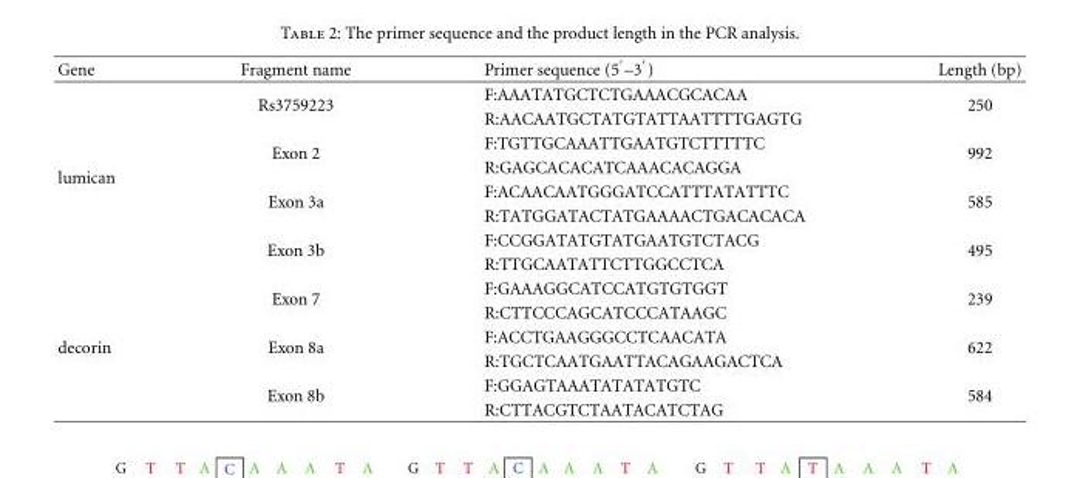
<table><thead><tr><td>Gene</td><td>Fragment name</td><td>Primer sequence (5 ′–3 ′)</td><td>Length (bp)</td></tr></thead><tbody><tr><td rowspan="8">lumican</td><td rowspan="2">Rs3759223</td><td>F:AAATATGCTCTGAAACGCACAA</td><td rowspan="2">250</td></tr><tr><td>R:AACAATGCTATGTATTAATTTTGAGTG</td></tr><tr><td rowspan="2">Exon 2</td><td>F:TGTTGCAAATTGAATGTCTTTTTC</td><td rowspan="2">992</td></tr><tr><td>R:GAGCACACATCAAACACAGGA</td></tr><tr><td rowspan="2">Exon 3a</td><td>F:ACAACAATGGGATCCATTTATATTTC</td><td rowspan="2">585</td></tr><tr><td>R:TATGGATACTATGAAAACTGACACACA</td></tr><tr><td rowspan="2">Exon 3b</td><td>F:CCGGATATGTATGAATGTCTACG</td><td rowspan="2">495</td></tr><tr><td>R:TTGCAATATTCTTGGCCTCA</td></tr><tr><td rowspan="6">decorin</td><td rowspan="2">Exon 7</td><td>F:GAAAGGCATCCATGTGTGGT</td><td rowspan="2">239</td></tr><tr><td>R:CTTCCCAGCATCCCATAAGC</td></tr><tr><td rowspan="2">Exon 8a</td><td>F:ACCTGAAGGGCCTCAACATA</td><td rowspan="2">622</td></tr><tr><td>R:TGCTCAATGAATTACAGAAGACTCA</td></tr><tr><td rowspan="2">Exon 8b</td><td>F:GGAGTAAATATATATGTC</td><td rowspan="2">584</td></tr><tr><td>R:CTTACGTCTAATACATCTAG</td></tr></tbody></table>